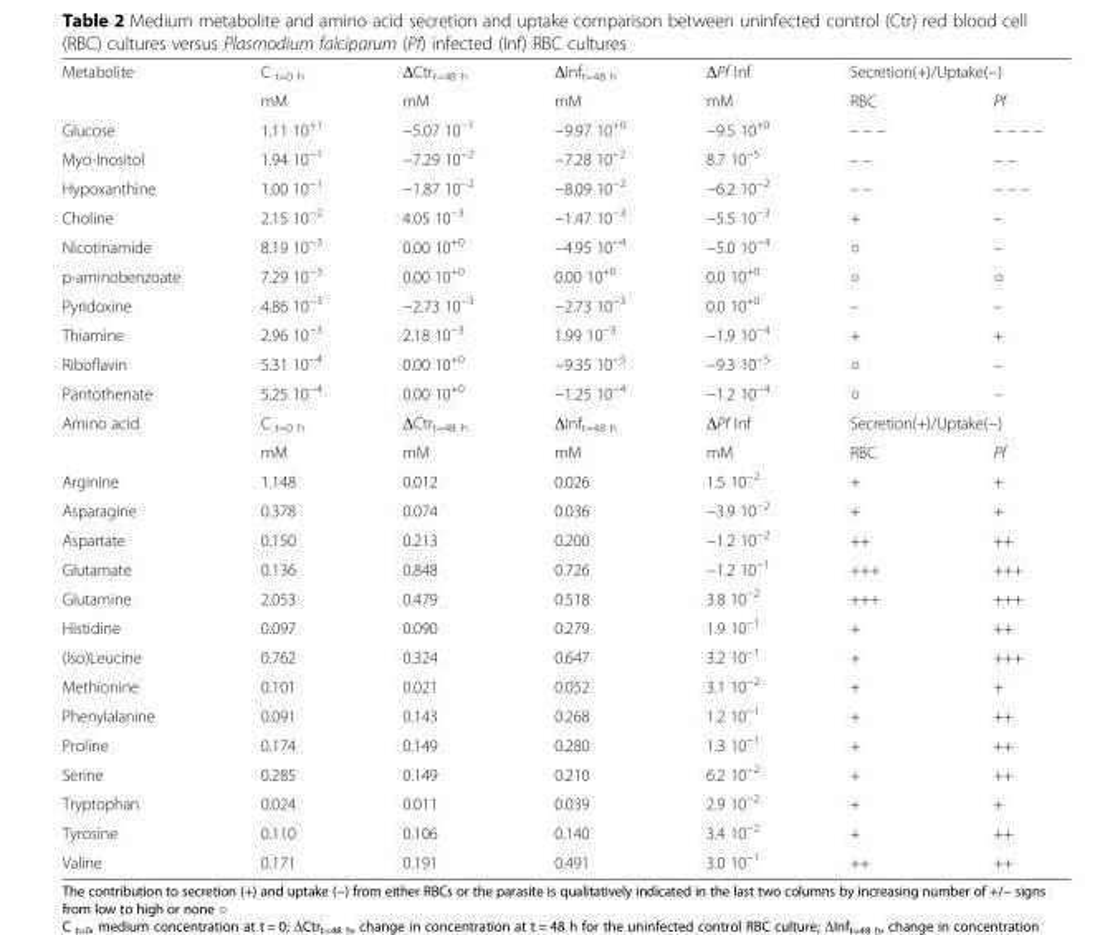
<table><tbody><tr><td rowspan="2">Metabolite</td><td>C <sub>t=0 h</sub></td><td>ΔCtr<sub>t=48 h</sub></td><td>ΔInf<sub>t=48 h</sub></td><td>ΔPf Inf</td><td colspan="2">Secretion(+)/Uptake(−)</td></tr><tr><td>mM</td><td>mM</td><td>mM</td><td>mM</td><td>RBC</td><td>Pf</td></tr><tr><td>Glucose</td><td>1.11 10<sup>+1</sup></td><td>−5.07 10<sup>−1</sup></td><td>−9.97 10<sup>+0</sup></td><td>−9.5 10<sup>+0</sup></td><td>– – –</td><td>– – – –</td></tr><tr><td>Myo-Inositol</td><td>1.94 10<sup>−1</sup></td><td>−7.29 10<sup>−2</sup></td><td>−7.28 10<sup>−2</sup></td><td>8.7 10<sup>−5</sup></td><td>– –</td><td>– –</td></tr><tr><td>Hypoxanthine</td><td>1.00 10<sup>−1</sup></td><td>−1.87 10<sup>−2</sup></td><td>−8.09 10<sup>−2</sup></td><td>−6.2 10<sup>−2</sup></td><td>– –</td><td>– – –</td></tr><tr><td>Choline</td><td>2.15 10<sup>−2</sup></td><td>4.05 10<sup>−3</sup></td><td>−1.47 10<sup>−3</sup></td><td>−5.5 10<sup>−3</sup></td><td>+</td><td>–</td></tr><tr><td>Nicotinamide</td><td>8.19 10<sup>−3</sup></td><td>0.00 10<sup>+0</sup></td><td>−4.95 10<sup>−4</sup></td><td>−5.0 10<sup>−4</sup></td><td>○</td><td>–</td></tr><tr><td>p-aminobenzoate</td><td>7.29 10<sup>−3</sup></td><td>0.00 10<sup>+0</sup></td><td>0.00 10<sup>+0</sup></td><td>0.0 10<sup>+0</sup></td><td>○</td><td>○</td></tr><tr><td>Pyridoxine</td><td>4.86 10<sup>−3</sup></td><td>−2.73 10<sup>−3</sup></td><td>−2.73 10<sup>−3</sup></td><td>0.0 10<sup>+0</sup></td><td>–</td><td>–</td></tr><tr><td>Thiamine</td><td>2.96 10<sup>−3</sup></td><td>2.18 10<sup>−3</sup></td><td>1.99 10<sup>−3</sup></td><td>−1.9 10<sup>−4</sup></td><td>+</td><td>+</td></tr><tr><td>Riboflavin</td><td>5.31 10<sup>−4</sup></td><td>0.00 10<sup>+0</sup></td><td>−9.35 10<sup>−5</sup></td><td>−9.3 10<sup>−5</sup></td><td>○</td><td>–</td></tr><tr><td>Pantothenate</td><td>5.25 10<sup>−4</sup></td><td>0.00 10<sup>+0</sup></td><td>−1.25 10<sup>−4</sup></td><td>−1.2 10<sup>−4</sup></td><td>○</td><td>–</td></tr><tr><td rowspan="2">Amino acid</td><td>C <sub>t=0 h</sub></td><td>ΔCtr<sub>t=48 h</sub></td><td>ΔInf<sub>t=48 h</sub></td><td>ΔPf Inf</td><td colspan="2">Secretion(+)/Uptake(−)</td></tr><tr><td>mM</td><td>mM</td><td>mM</td><td>mM</td><td>RBC</td><td>Pf</td></tr><tr><td>Arginine</td><td>1.148</td><td>0.012</td><td>0.026</td><td>1.5 10<sup>−2</sup></td><td>+</td><td>+</td></tr><tr><td>Asparagine</td><td>0.378</td><td>0.074</td><td>0.036</td><td>−3.9 10<sup>−2</sup></td><td>+</td><td>+</td></tr><tr><td>Aspartate</td><td>0.150</td><td>0.213</td><td>0.200</td><td>−1.2 10<sup>−2</sup></td><td>++</td><td>++</td></tr><tr><td>Glutamate</td><td>0.136</td><td>0.848</td><td>0.726</td><td>−1.2 10<sup>−1</sup></td><td>+++</td><td>+++</td></tr><tr><td>Glutamine</td><td>2.053</td><td>0.479</td><td>0.518</td><td>3.8 10<sup>−2</sup></td><td>+++</td><td>+++</td></tr><tr><td>Histidine</td><td>0.097</td><td>0.090</td><td>0.279</td><td>1.9 10<sup>−1</sup></td><td>+</td><td>++</td></tr><tr><td>(Iso)Leucine</td><td>0.762</td><td>0.324</td><td>0.647</td><td>3.2 10<sup>−1</sup></td><td>+</td><td>+++</td></tr><tr><td>Methionine</td><td>0.101</td><td>0.021</td><td>0.052</td><td>3.1 10<sup>−2</sup></td><td>+</td><td>+</td></tr><tr><td>Phenylalanine</td><td>0.091</td><td>0.143</td><td>0.268</td><td>1.2 10<sup>−1</sup></td><td>+</td><td>++</td></tr><tr><td>Proline</td><td>0.174</td><td>0.149</td><td>0.280</td><td>1.3 10<sup>−1</sup></td><td>+</td><td>++</td></tr><tr><td>Serine</td><td>0.285</td><td>0.149</td><td>0.210</td><td>6.2 10<sup>−2</sup></td><td>+</td><td>++</td></tr><tr><td>Tryptophan</td><td>0.024</td><td>0.011</td><td>0.039</td><td>2.9 10<sup>−2</sup></td><td>+</td><td>+</td></tr><tr><td>Tyrosine</td><td>0.110</td><td>0.106</td><td>0.140</td><td>3.4 10<sup>−2</sup></td><td>+</td><td>++</td></tr><tr><td>Valine</td><td>0.171</td><td>0.191</td><td>0.491</td><td>3.0 10<sup>−1</sup></td><td>++</td><td>++</td></tr></tbody></table>